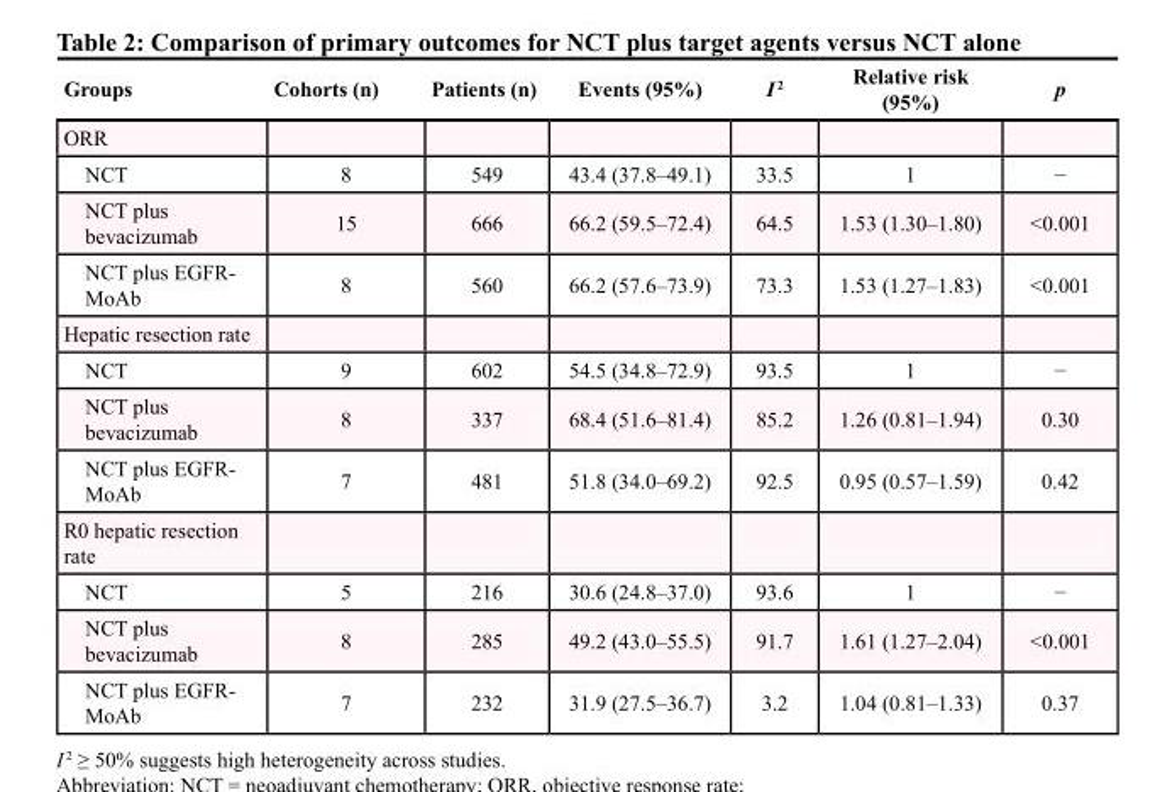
<table><thead><tr><td>Groups</td><td>Cohorts (n)</td><td>Patients (n)</td><td>Events (95%)</td><td>I <sup>2</sup></td><td>Relative risk (95%)</td><td>p</td></tr></thead><tbody><tr><td colspan="7">ORR</td></tr><tr><td>NCT</td><td>8</td><td>549</td><td>43.4 (37.8–49.1)</td><td>33.5</td><td>1</td><td>−</td></tr><tr><td>NCT plus bevacizumab</td><td>15</td><td>666</td><td>66.2 (59.5–72.4)</td><td>64.5</td><td>1.53 (1.30–1.80)</td><td>&lt;0.001</td></tr><tr><td>NCT plus EGFR- MoAb</td><td>8</td><td>560</td><td>66.2 (57.6–73.9)</td><td>73.3</td><td>1.53 (1.27–1.83)</td><td>&lt;0.001</td></tr><tr><td colspan="7">Hepatic resection rate</td></tr><tr><td>NCT</td><td>9</td><td>602</td><td>54.5 (34.8–72.9)</td><td>93.5</td><td>1</td><td>−</td></tr><tr><td>NCT plus bevacizumab</td><td>8</td><td>337</td><td>68.4 (51.6–81.4)</td><td>85.2</td><td>1.26 (0.81–1.94)</td><td>0.30</td></tr><tr><td>NCT plus EGFR- MoAb</td><td>7</td><td>481</td><td>51.8 (34.0–69.2)</td><td>92.5</td><td>0.95 (0.57–1.59)</td><td>0.42</td></tr><tr><td colspan="7">R0 hepatic resection rate</td></tr><tr><td>NCT</td><td>5</td><td>216</td><td>30.6 (24.8–37.0)</td><td>93.6</td><td>1</td><td>−</td></tr><tr><td>NCT plus bevacizumab</td><td>8</td><td>285</td><td>49.2 (43.0–55.5)</td><td>91.7</td><td>1.61 (1.27–2.04)</td><td>&lt;0.001</td></tr><tr><td>NCT plus EGFR- MoAb</td><td>7</td><td>232</td><td>31.9 (27.5–36.7)</td><td>3.2</td><td>1.04 (0.81–1.33)</td><td>0.37</td></tr></tbody></table>